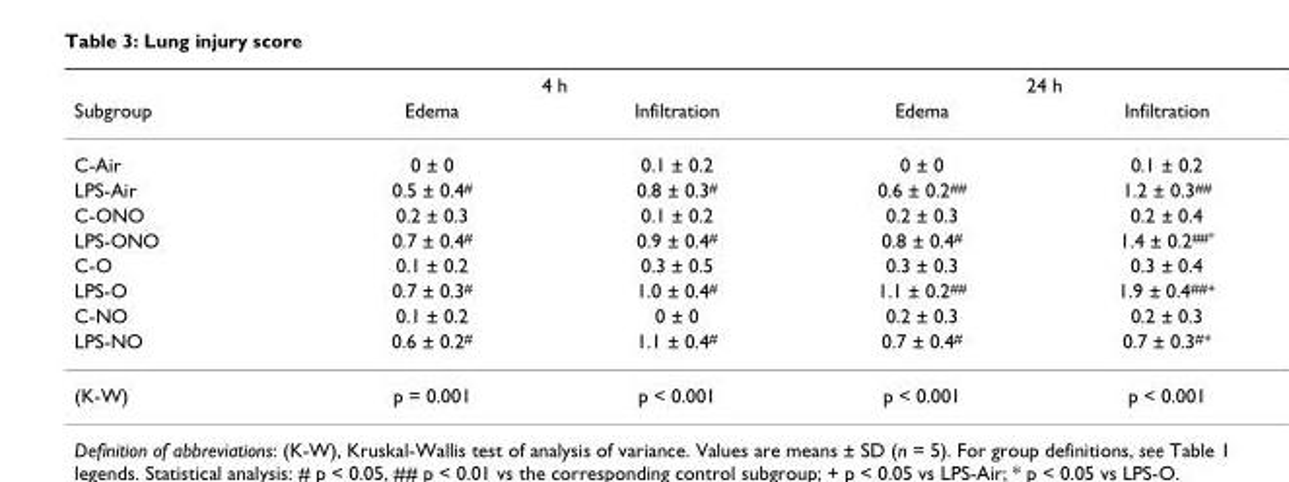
<table><thead><tr><td rowspan="2">Subgroup</td><td colspan="2">4 h</td><td colspan="2">24 h</td></tr><tr><td>Edema</td><td>Infiltration</td><td>Edema</td><td>Infiltration</td></tr></thead><tbody><tr><td>C-Air</td><td>0 ± 0</td><td>0.1 ± 0.2</td><td>0 ± 0</td><td>0.1 ± 0.2</td></tr><tr><td>LPS-Air</td><td>0.5 ± 0.4<sup>#</sup></td><td>0.8 ± 0.3<sup>#</sup></td><td>0.6 ± 0.2<sup>##</sup></td><td>1.2 ± 0.3<sup>##</sup></td></tr><tr><td>C-ONO</td><td>0.2 ± 0.3</td><td>0.1 ± 0.2</td><td>0.2 ± 0.3</td><td>0.2 ± 0.4</td></tr><tr><td>LPS-ONO</td><td>0.7 ± 0.4<sup>#</sup></td><td>0.9 ± 0.4<sup>#</sup></td><td>0.8 ± 0.4<sup>#</sup></td><td>1.4 ± 0.2<sup>##*</sup></td></tr><tr><td>C-O</td><td>0.1 ± 0.2</td><td>0.3 ± 0.5</td><td>0.3 ± 0.3</td><td>0.3 ± 0.4</td></tr><tr><td>LPS-O</td><td>0.7 ± 0.3<sup>#</sup></td><td>1.0 ± 0.4<sup>#</sup></td><td>1.1 ± 0.2<sup>##</sup></td><td>1.9 ± 0.4<sup>##+</sup></td></tr><tr><td>C-NO</td><td>0.1 ± 0.2</td><td>0 ± 0</td><td>0.2 ± 0.3</td><td>0.2 ± 0.3</td></tr><tr><td>LPS-NO</td><td>0.6 ± 0.2<sup>#</sup></td><td>1.1 ± 0.4<sup>#</sup></td><td>0.7 ± 0.4<sup>#</sup></td><td>0.7 ± 0.3<sup>#+</sup></td></tr><tr><td>(K-W)</td><td>p = 0.001</td><td>p &lt; 0.001</td><td>p &lt; 0.001</td><td>p &lt; 0.001</td></tr></tbody></table>